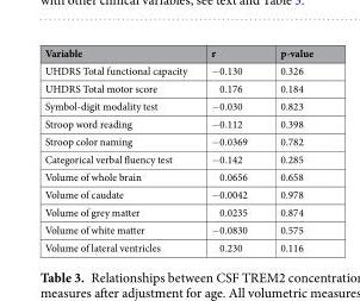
<table><thead><tr><td>Variable</td><td>r</td><td>p-value</td></tr></thead><tbody><tr><td>UHDRS Total functional capacity</td><td>−0.130</td><td>0.326</td></tr><tr><td>UHDRS Total motor score</td><td>0.176</td><td>0.184</td></tr><tr><td>Symbol-digit modality test</td><td>−0.030</td><td>0.823</td></tr><tr><td>Stroop word reading</td><td>−0.112</td><td>0.398</td></tr><tr><td>Stroop color naming</td><td>−0.0369</td><td>0.782</td></tr><tr><td>Categorical verbal fluency test</td><td>−0.142</td><td>0.285</td></tr><tr><td>Volume of whole brain</td><td>0.0656</td><td>0.658</td></tr><tr><td>Volume of caudate</td><td>−0.0042</td><td>0.978</td></tr><tr><td>Volume of grey matter</td><td>0.0235</td><td>0.874</td></tr><tr><td>Volume of white matter</td><td>−0.0830</td><td>0.575</td></tr><tr><td>Volume of lateral ventricles</td><td>0.230</td><td>0.116</td></tr></tbody></table>